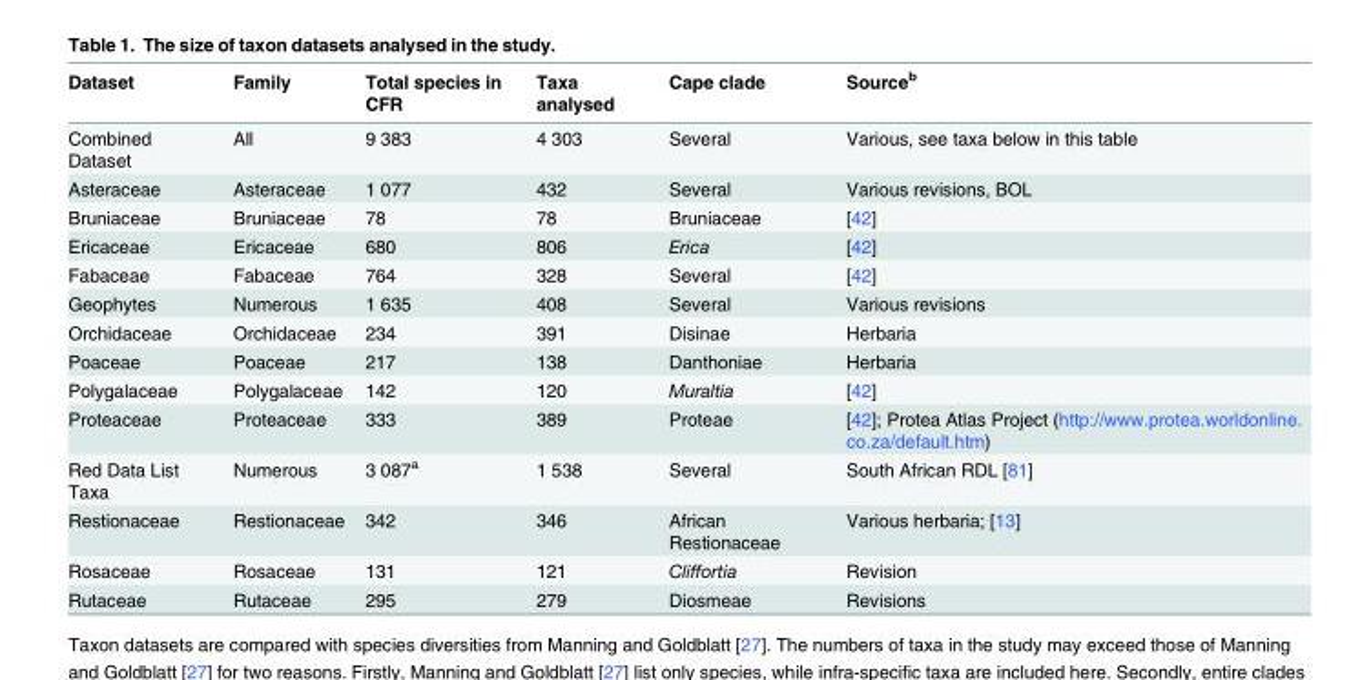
<table><thead><tr><td>Dataset</td><td>Family</td><td>Total species in CFR</td><td>Taxa analysed</td><td>Cape clade</td><td>Source<sup>b</sup></td></tr></thead><tbody><tr><td>Combined Dataset</td><td>All</td><td>9 383</td><td>4 303</td><td>Several</td><td>Various, see taxa below in this table</td></tr><tr><td>Asteraceae</td><td>Asteraceae</td><td>1 077</td><td>432</td><td>Several</td><td>Various revisions, BOL</td></tr><tr><td>Bruniaceae</td><td>Bruniaceae</td><td>78</td><td>78</td><td>Bruniaceae</td><td>[42]</td></tr><tr><td>Ericaceae</td><td>Ericaceae</td><td>680</td><td>806</td><td>Erica</td><td>[42]</td></tr><tr><td>Fabaceae</td><td>Fabaceae</td><td>764</td><td>328</td><td>Several</td><td>[42]</td></tr><tr><td>Geophytes</td><td>Numerous</td><td>1 635</td><td>408</td><td>Several</td><td>Various revisions</td></tr><tr><td>Orchidaceae</td><td>Orchidaceae</td><td>234</td><td>391</td><td>Disinae</td><td>Herbaria</td></tr><tr><td>Poaceae</td><td>Poaceae</td><td>217</td><td>138</td><td>Danthoniae</td><td>Herbaria</td></tr><tr><td>Polygalaceae</td><td>Polygalaceae</td><td>142</td><td>120</td><td>Muraltia</td><td>[42]</td></tr><tr><td>Proteaceae</td><td>Proteaceae</td><td>333</td><td>389</td><td>Proteae</td><td>[42]; Protea Atlas Project (http://www.protea.worldonline. co.za/default.htm)</td></tr><tr><td>Red Data List Taxa</td><td>Numerous</td><td>3 087<sup>a</sup></td><td>1 538</td><td>Several</td><td>South African RDL [81]</td></tr><tr><td>Restionaceae</td><td>Restionaceae</td><td>342</td><td>346</td><td>African Restionaceae</td><td>Various herbaria; [13]</td></tr><tr><td>Rosaceae</td><td>Rosaceae</td><td>131</td><td>121</td><td>Cliffortia</td><td>Revision</td></tr><tr><td>Rutaceae</td><td>Rutaceae</td><td>295</td><td>279</td><td>Diosmeae</td><td>Revisions</td></tr></tbody></table>